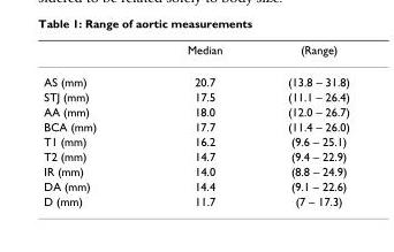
<table><thead><tr><td></td><td>Median</td><td>(Range)</td></tr></thead><tbody><tr><td>AS (mm)</td><td>20.7</td><td>(13.8 – 31.8)</td></tr><tr><td>STJ (mm)</td><td>17.5</td><td>(11.1 – 26.4)</td></tr><tr><td>AA (mm)</td><td>18.0</td><td>(12.0 – 26.7)</td></tr><tr><td>BCA (mm)</td><td>17.7</td><td>(11.4 – 26.0)</td></tr><tr><td>T1 (mm)</td><td>16.2</td><td>(9.6 – 25.1)</td></tr><tr><td>T2 (mm)</td><td>14.7</td><td>(9.4 – 22.9)</td></tr><tr><td>IR (mm)</td><td>14.0</td><td>(8.8 – 24.9)</td></tr><tr><td>DA (mm)</td><td>14.4</td><td>(9.1 – 22.6)</td></tr><tr><td>D (mm)</td><td>11.7</td><td>(7 – 17.3)</td></tr></tbody></table>